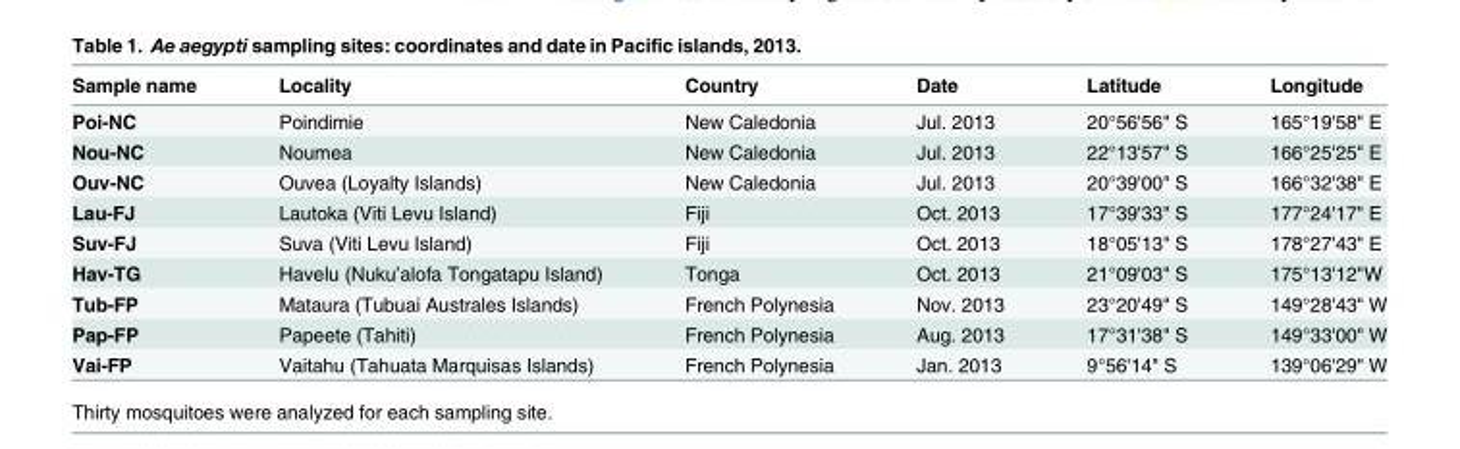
<table><thead><tr><td>Sample name</td><td>Locality</td><td>Country</td><td>Date</td><td>Latitude</td><td>Longitude</td></tr></thead><tbody><tr><td>Poi-NC</td><td>Poindimie</td><td>New Caledonia</td><td>Jul. 2013</td><td>20°56&#x27;56&quot; S</td><td>165°19&#x27;58&quot; E</td></tr><tr><td>Nou-NC</td><td>Noumea</td><td>New Caledonia</td><td>Jul. 2013</td><td>22°13&#x27;57&quot; S</td><td>166°25&#x27;25&quot; E</td></tr><tr><td>Ouv-NC</td><td>Ouvea (Loyalty Islands)</td><td>New Caledonia</td><td>Jul. 2013</td><td>20°39&#x27;00&quot; S</td><td>166°32&#x27;38&quot; E</td></tr><tr><td>Lau-FJ</td><td>Lautoka (Viti Levu Island)</td><td>Fiji</td><td>Oct. 2013</td><td>17°39&#x27;33&quot; S</td><td>177°24&#x27;17&quot; E</td></tr><tr><td>Suv-FJ</td><td>Suva (Viti Levu Island)</td><td>Fiji</td><td>Oct. 2013</td><td>18°05&#x27;13&quot; S</td><td>178°27&#x27;43&quot; E</td></tr><tr><td>Hav-TG</td><td>Havelu (Nuku’alofa Tongatapu Island)</td><td>Tonga</td><td>Oct. 2013</td><td>21°09&#x27;03&quot; S</td><td>175°13&#x27;12&quot;W</td></tr><tr><td>Tub-FP</td><td>Mataura (Tubuai Australes Islands)</td><td>French Polynesia</td><td>Nov. 2013</td><td>23°20&#x27;49&quot; S</td><td>149°28&#x27;43&quot; W</td></tr><tr><td>Pap-FP</td><td>Papeete (Tahiti)</td><td>French Polynesia</td><td>Aug. 2013</td><td>17°31&#x27;38&quot; S</td><td>149°33&#x27;00&quot; W</td></tr><tr><td>Vai-FP</td><td>Vaitahu (Tahuata Marquisas Islands)</td><td>French Polynesia</td><td>Jan. 2013</td><td>9°56&#x27;14&quot; S</td><td>139°06&#x27;29&quot; W</td></tr></tbody></table>